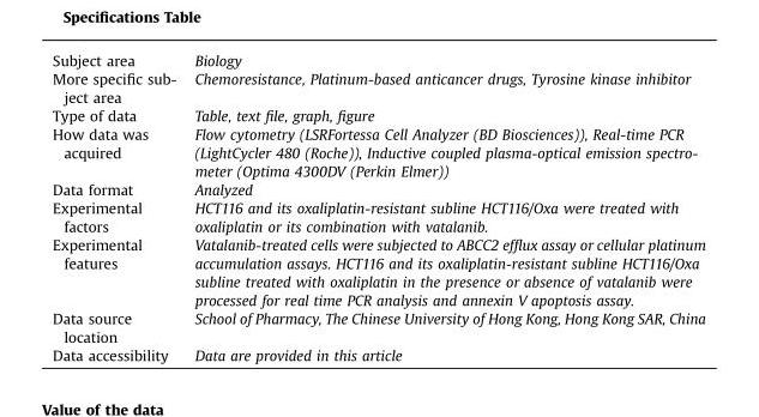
<table><tbody><tr><td>Subject area</td><td>Biology</td></tr><tr><td>More specific sub- ject area</td><td>Chemoresistance, Platinum-based anticancer drugs, Tyrosine kinase inhibitor</td></tr><tr><td>Type of data</td><td>Table, text file, graph, figure</td></tr><tr><td>How data was acquired</td><td>Flow cytometry (LSRFortessa Cell Analyzer (BD Biosciences)), Real-time PCR (LightCycler 480 (Roche)), Inductive coupled plasma-optical emission spectro- meter (Optima 4300DV (Perkin Elmer))</td></tr><tr><td>Data format</td><td>Analyzed</td></tr><tr><td>Experimental factors</td><td>HCT116 and its oxaliplatin-resistant subline HCT116/Oxa were treated with oxaliplatin or its combination with vatalanib.</td></tr><tr><td>Experimental features</td><td>Vatalanib-treated cells were subjected to ABCC2 efflux assay or cellular platinum accumulation assays. HCT116 and its oxaliplatin-resistant subline HCT116/Oxa subline treated with oxaliplatin in the presence or absence of vatalanib were processed for real time PCR analysis and annexin V apoptosis assay.</td></tr><tr><td>Data source location</td><td>School of Pharmacy, The Chinese University of Hong Kong, Hong Kong SAR, China</td></tr><tr><td>Data accessibility</td><td>Data are provided in this article</td></tr></tbody></table>